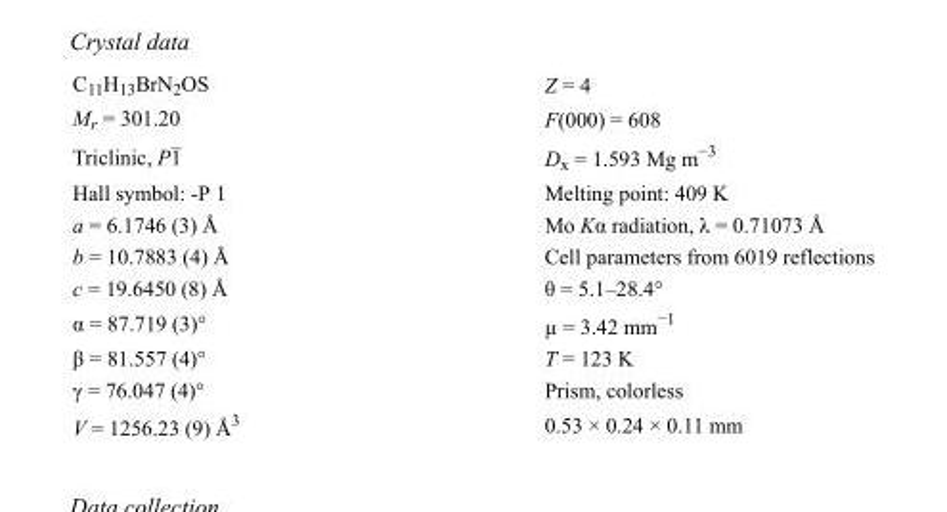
<table><tbody><tr><td>C<sub>11</sub>H<sub>13</sub>BrN<sub>2</sub>OS</td><td>Z = 4</td></tr><tr><td>M<sub>r</sub> = 301.20</td><td>F(000) = 608</td></tr><tr><td>Triclinic, P1</td><td>D<sub>x</sub> = 1.593 Mg m<sup>−3</sup></td></tr><tr><td>Hall symbol: -P 1</td><td>Melting point: 409 K</td></tr><tr><td>a = 6.1746 (3) Å</td><td>Mo Kα radiation, λ = 0.71073 Å</td></tr><tr><td>b = 10.7883 (4) Å</td><td>Cell parameters from 6019 reflections</td></tr><tr><td>c = 19.6450 (8) Å</td><td>θ = 5.1–28.4°</td></tr><tr><td>α = 87.719 (3)°</td><td>µ = 3.42 mm<sup>−1</sup></td></tr><tr><td>β = 81.557 (4)°</td><td>T = 123 K</td></tr><tr><td>γ = 76.047 (4)°</td><td>Prism, colorless</td></tr><tr><td>V = 1256.23 (9) Å<sup>3</sup></td><td>0.53 × 0.24 × 0.11 mm</td></tr></tbody></table>